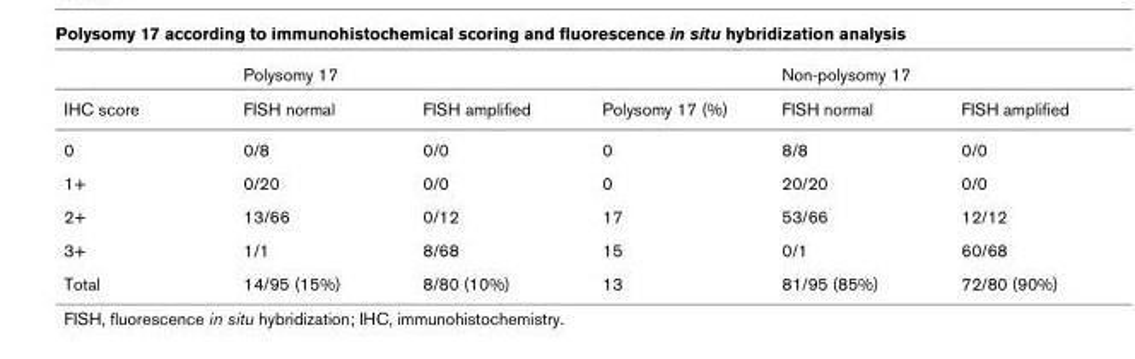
<table><thead><tr><td rowspan="2">IHC score</td><td colspan="3">Polysomy 17</td><td colspan="2">Non-polysomy 17</td></tr><tr><td>FISH normal</td><td>FISH amplified</td><td>Polysomy 17 (%)</td><td>FISH normal</td><td>FISH amplified</td></tr></thead><tbody><tr><td>0</td><td>0/8</td><td>0/0</td><td>0</td><td>8/8</td><td>0/0</td></tr><tr><td>1+</td><td>0/20</td><td>0/0</td><td>0</td><td>20/20</td><td>0/0</td></tr><tr><td>2+</td><td>13/66</td><td>0/12</td><td>17</td><td>53/66</td><td>12/12</td></tr><tr><td>3+</td><td>1/1</td><td>8/68</td><td>15</td><td>0/1</td><td>60/68</td></tr><tr><td>Total</td><td>14/95 (15%)</td><td>8/80 (10%)</td><td>13</td><td>81/95 (85%)</td><td>72/80 (90%)</td></tr></tbody></table>